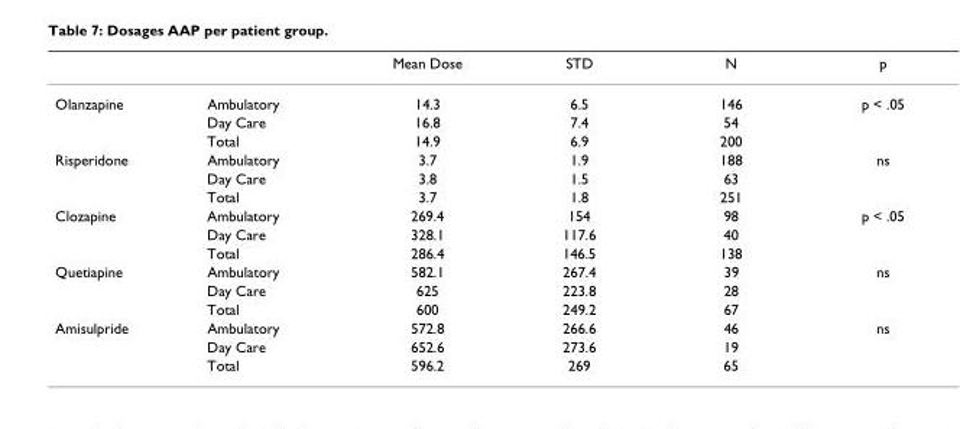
<table><thead><tr><td></td><td></td><td>Mean Dose</td><td>STD</td><td>N</td><td>p</td></tr></thead><tbody><tr><td rowspan="3">Olanzapine</td><td>Ambulatory</td><td>14.3</td><td>6.5</td><td>146</td><td>p &lt; .05</td></tr><tr><td>Day Care</td><td>16.8</td><td>7.4</td><td>54</td><td></td></tr><tr><td>Total</td><td>14.9</td><td>6.9</td><td>200</td><td></td></tr><tr><td rowspan="3">Risperidone</td><td>Ambulatory</td><td>3.7</td><td>1.9</td><td>188</td><td>ns</td></tr><tr><td>Day Care</td><td>3.8</td><td>1.5</td><td>63</td><td></td></tr><tr><td>Total</td><td>3.7</td><td>1.8</td><td>251</td><td></td></tr><tr><td rowspan="3">Clozapine</td><td>Ambulatory</td><td>269.4</td><td>154</td><td>98</td><td>p &lt; .05</td></tr><tr><td>Day Care</td><td>328.1</td><td>117.6</td><td>40</td><td></td></tr><tr><td>Total</td><td>286.4</td><td>146.5</td><td>138</td><td></td></tr><tr><td rowspan="3">Quetiapine</td><td>Ambulatory</td><td>582.1</td><td>267.4</td><td>39</td><td>ns</td></tr><tr><td>Day Care</td><td>625</td><td>223.8</td><td>28</td><td></td></tr><tr><td>Total</td><td>600</td><td>249.2</td><td>67</td><td></td></tr><tr><td rowspan="3">Amisulpride</td><td>Ambulatory</td><td>572.8</td><td>266.6</td><td>46</td><td>ns</td></tr><tr><td>Day Care</td><td>652.6</td><td>273.6</td><td>19</td><td></td></tr><tr><td>Total</td><td>596.2</td><td>269</td><td>65</td><td></td></tr></tbody></table>